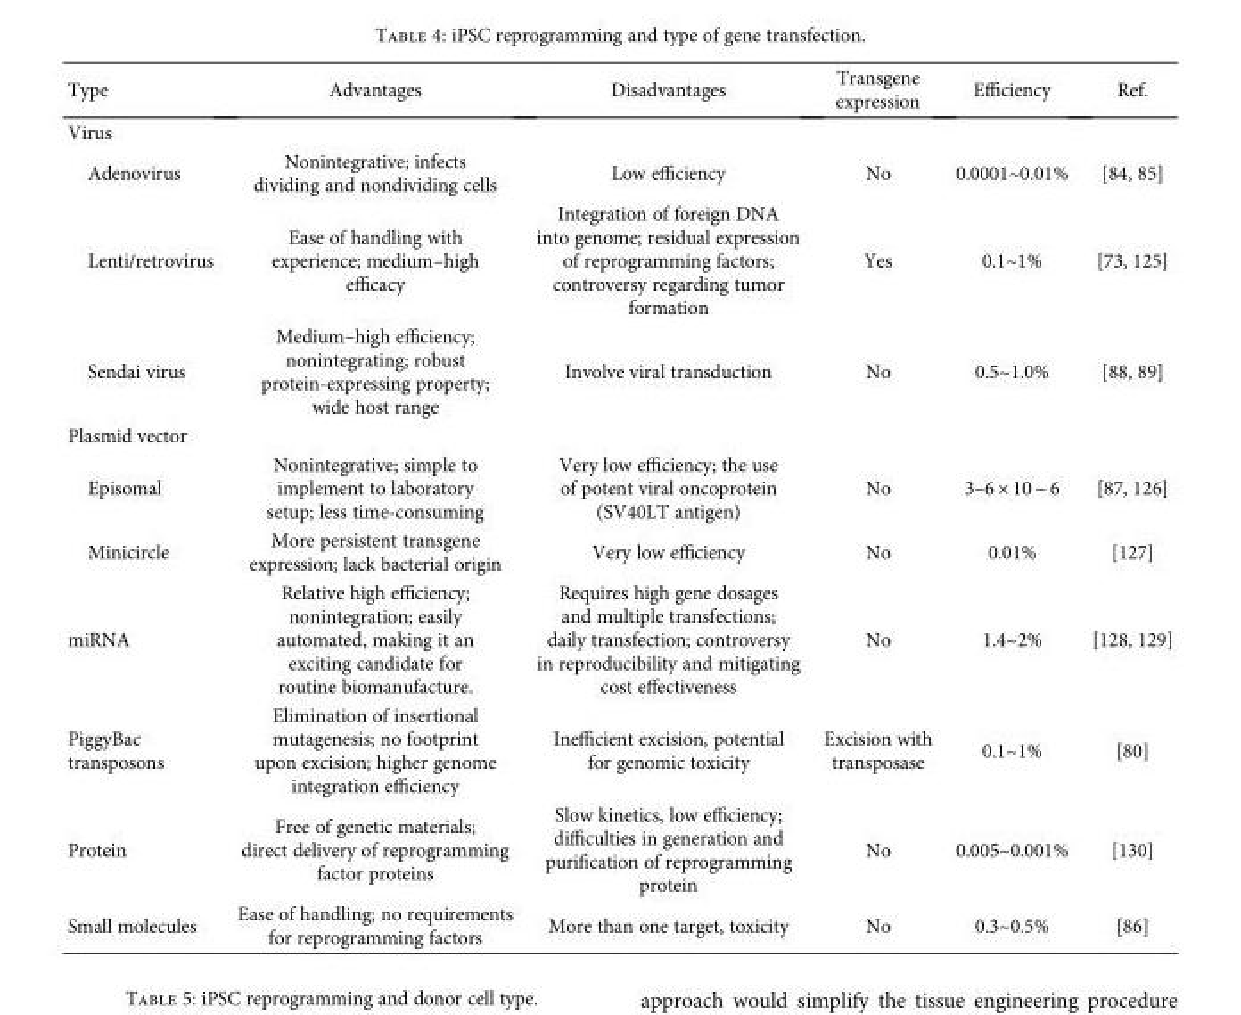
<table><thead><tr><td>Type</td><td>Advantages</td><td>Disadvantages</td><td>Transgene expression</td><td>Efficiency</td><td>Ref.</td></tr></thead><tbody><tr><td colspan="6">Virus</td></tr><tr><td>Adenovirus</td><td>Nonintegrative; infects dividing and nondividing cells</td><td>Low efficiency</td><td>No</td><td>0.0001~0.01%</td><td>[84, 85]</td></tr><tr><td>Lenti/retrovirus</td><td>Ease of handling with experience; medium–high efficacy</td><td>Integration of foreign DNA into genome; residual expression of reprogramming factors; controversy regarding tumor formation</td><td>Yes</td><td>0.1~1%</td><td>[73, 125]</td></tr><tr><td>Sendai virus</td><td>Medium–high efficiency; nonintegrating; robust protein-expressing property; wide host range</td><td>Involve viral transduction</td><td>No</td><td>0.5~1.0%</td><td>[88, 89]</td></tr><tr><td colspan="6">Plasmid vector</td></tr><tr><td>Episomal</td><td>Nonintegrative; simple to implement to laboratory setup; less time-consuming</td><td>Very low efficiency; the use of potent viral oncoprotein (SV40LT antigen)</td><td>No</td><td>3–6 × 10 − 6</td><td>[87, 126]</td></tr><tr><td>Minicircle</td><td>More persistent transgene expression; lack bacterial origin</td><td>Very low efficiency</td><td>No</td><td>0.01%</td><td>[127]</td></tr><tr><td>miRNA</td><td>Relative high efficiency; nonintegration; easily automated, making it an exciting candidate for routine biomanufacture.</td><td>Requires high gene dosages and multiple transfections; daily transfection; controversy in reproducibility and mitigating cost effectiveness</td><td>No</td><td>1.4~2%</td><td>[128, 129]</td></tr><tr><td>PiggyBac transposons</td><td>Elimination of insertional mutagenesis; no footprint upon excision; higher genome integration efficiency</td><td>Inefficient excision, potential for genomic toxicity</td><td>Excision with transposase</td><td>0.1~1%</td><td>[80]</td></tr><tr><td>Protein</td><td>Free of genetic materials; direct delivery of reprogramming factor proteins</td><td>Slow kinetics, low efficiency; difficulties in generation and purification of reprogramming protein</td><td>No</td><td>0.005~0.001%</td><td>[130]</td></tr><tr><td>Small molecules</td><td>Ease of handling; no requirements for reprogramming factors</td><td>More than one target, toxicity</td><td>No</td><td>0.3~0.5%</td><td>[86]</td></tr></tbody></table>